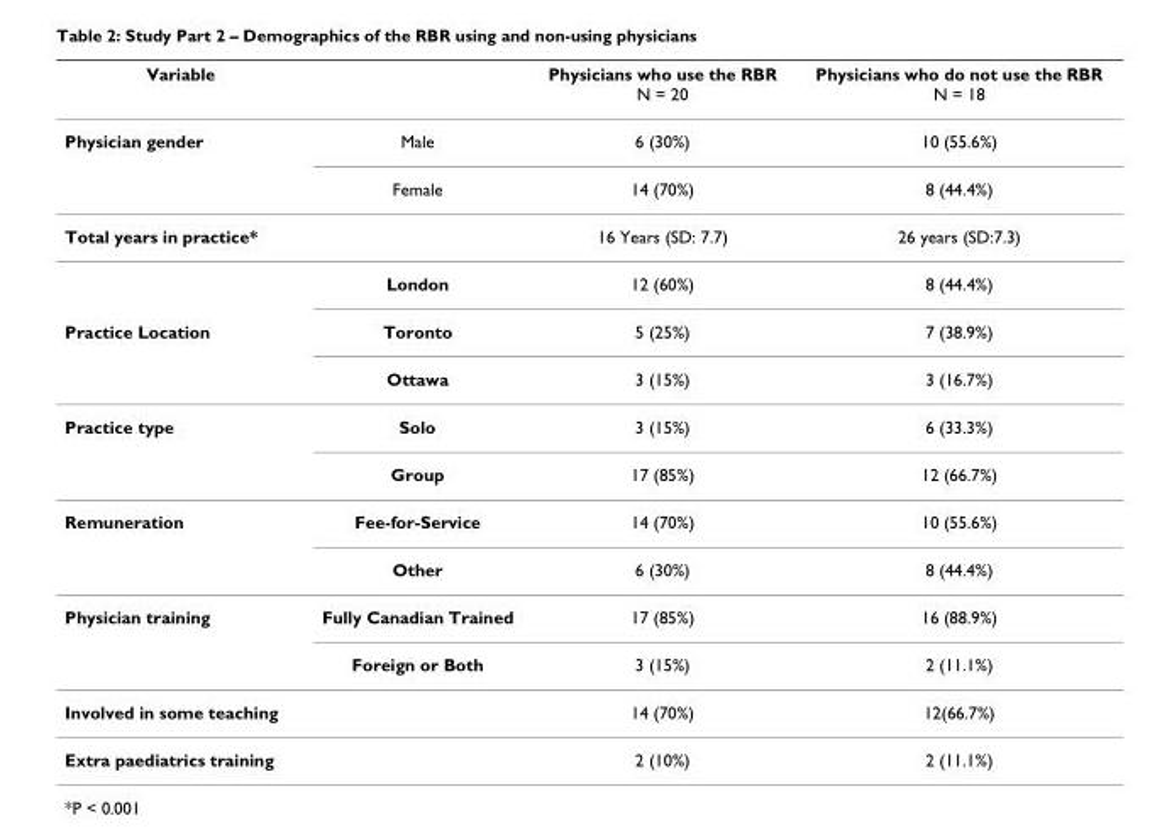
<table><thead><tr><td>Variable</td><td></td><td>Physicians who use the RBR N = 20</td><td>Physicians who do not use the RBR N = 18</td></tr></thead><tbody><tr><td rowspan="2">Physician gender</td><td>Male</td><td>6 (30%)</td><td>10 (55.6%)</td></tr><tr><td>Female</td><td>14 (70%)</td><td>8 (44.4%)</td></tr><tr><td rowspan="2">Total years in practice*</td><td></td><td>16 Years (SD: 7.7)</td><td>26 years (SD:7.3)</td></tr><tr><td>London</td><td>12 (60%)</td><td>8 (44.4%)</td></tr><tr><td rowspan="2">Practice Location</td><td>Toronto</td><td>5 (25%)</td><td>7 (38.9%)</td></tr><tr><td>Ottawa</td><td>3 (15%)</td><td>3 (16.7%)</td></tr><tr><td rowspan="2">Practice type</td><td>Solo</td><td>3 (15%)</td><td>6 (33.3%)</td></tr><tr><td>Group</td><td>17 (85%)</td><td>12 (66.7%)</td></tr><tr><td rowspan="2">Remuneration</td><td>Fee-for-Service</td><td>14 (70%)</td><td>10 (55.6%)</td></tr><tr><td>Other</td><td>6 (30%)</td><td>8 (44.4%)</td></tr><tr><td rowspan="2">Physician training</td><td>Fully Canadian Trained</td><td>17 (85%)</td><td>16 (88.9%)</td></tr><tr><td>Foreign or Both</td><td>3 (15%)</td><td>2 (11.1%)</td></tr><tr><td>Involved in some teaching</td><td></td><td>14 (70%)</td><td>12(66.7%)</td></tr><tr><td>Extra paediatrics training</td><td></td><td>2 (10%)</td><td>2 (11.1%)</td></tr></tbody></table>